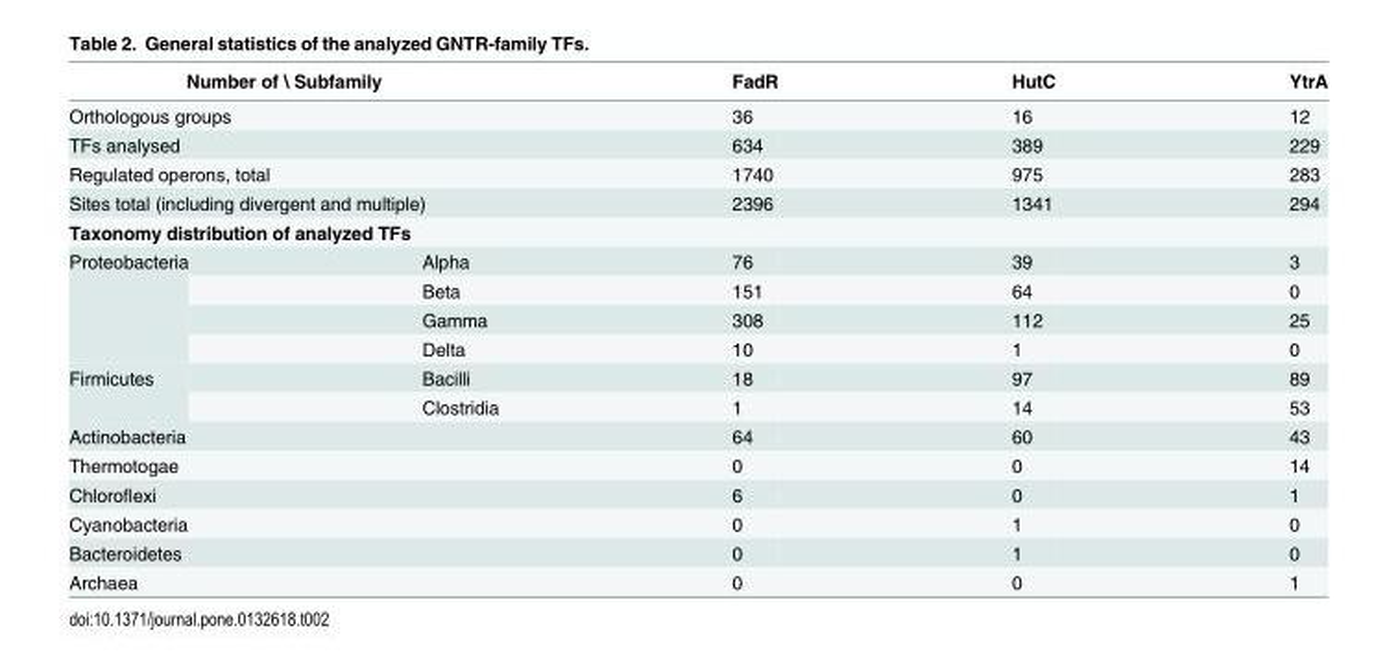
<table><thead><tr><td colspan="2">Number of \ Subfamily</td><td>FadR</td><td>HutC</td><td>YtrA</td></tr></thead><tbody><tr><td colspan="2">Orthologous groups</td><td>36</td><td>16</td><td>12</td></tr><tr><td colspan="2">TFs analysed</td><td>634</td><td>389</td><td>229</td></tr><tr><td colspan="2">Regulated operons, total</td><td>1740</td><td>975</td><td>283</td></tr><tr><td colspan="2">Sites total (including divergent and multiple)</td><td>2396</td><td>1341</td><td>294</td></tr><tr><td colspan="5">Taxonomy distribution of analyzed TFs</td></tr><tr><td rowspan="4">Proteobacteria</td><td>Alpha</td><td>76</td><td>39</td><td>3</td></tr><tr><td>Beta</td><td>151</td><td>64</td><td>0</td></tr><tr><td>Gamma</td><td>308</td><td>112</td><td>25</td></tr><tr><td>Delta</td><td>10</td><td>1</td><td>0</td></tr><tr><td rowspan="2">Firmicutes</td><td>Bacilli</td><td>18</td><td>97</td><td>89</td></tr><tr><td>Clostridia</td><td>1</td><td>14</td><td>53</td></tr><tr><td colspan="2">Actinobacteria</td><td>64</td><td>60</td><td>43</td></tr><tr><td colspan="2">Thermotogae</td><td>0</td><td>0</td><td>14</td></tr><tr><td colspan="2">Chloroflexi</td><td>6</td><td>0</td><td>1</td></tr><tr><td colspan="2">Cyanobacteria</td><td>0</td><td>1</td><td>0</td></tr><tr><td colspan="2">Bacteroidetes</td><td>0</td><td>1</td><td>0</td></tr><tr><td colspan="2">Archaea</td><td>0</td><td>0</td><td>1</td></tr></tbody></table>